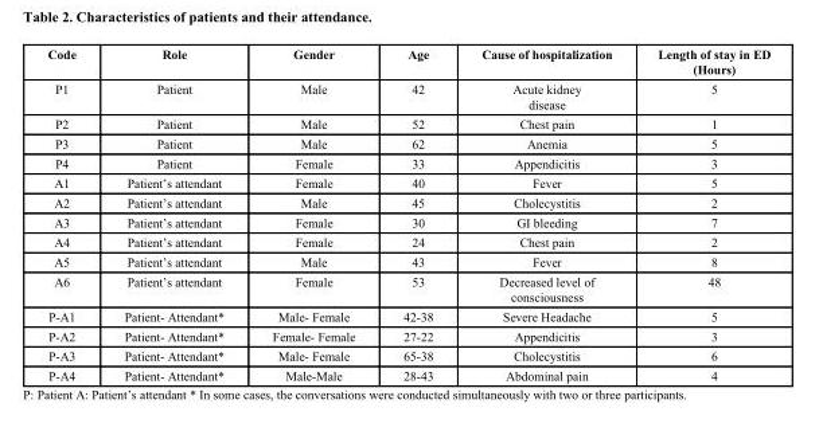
<table><thead><tr><td>Code</td><td>Role</td><td>Gender</td><td>Age</td><td>Cause of hospitalization</td><td>Length of stay in ED (Hours)</td></tr></thead><tbody><tr><td>P1</td><td>Patient</td><td>Male</td><td>42</td><td>Acute kidney disease</td><td>5</td></tr><tr><td>P2</td><td>Patient</td><td>Male</td><td>52</td><td>Chest pain</td><td>1</td></tr><tr><td>P3</td><td>Patient</td><td>Male</td><td>62</td><td>Anemia</td><td>5</td></tr><tr><td>P4</td><td>Patient</td><td>Female</td><td>33</td><td>Appendicitis</td><td>3</td></tr><tr><td>A1</td><td>Patient’s attendant</td><td>Female</td><td>40</td><td>Fever</td><td>5</td></tr><tr><td>A2</td><td>Patient’s attendant</td><td>Male</td><td>45</td><td>Cholecystitis</td><td>2</td></tr><tr><td>A3</td><td>Patient’s attendant</td><td>Female</td><td>30</td><td>GI bleeding</td><td>7</td></tr><tr><td>A4</td><td>Patient’s attendant</td><td>Female</td><td>24</td><td>Chest pain</td><td>2</td></tr><tr><td>A5</td><td>Patient’s attendant</td><td>Male</td><td>43</td><td>Fever</td><td>8</td></tr><tr><td>A6</td><td>Patient’s attendant</td><td>Female</td><td>53</td><td>Decreased level of consciousness</td><td>48</td></tr><tr><td>P-A1</td><td>Patient- Attendant*</td><td>Male- Female</td><td>42-38</td><td>Severe Headache</td><td>5</td></tr><tr><td>P-A2</td><td>Patient- Attendant*</td><td>Female- Female</td><td>27-22</td><td>Appendicitis</td><td>3</td></tr><tr><td>P-A3</td><td>Patient- Attendant*</td><td>Male- Female</td><td>65-38</td><td>Cholecystitis</td><td>6</td></tr><tr><td>P-A4</td><td>Patient- Attendant*</td><td>Male-Male</td><td>28-43</td><td>Abdominal pain</td><td>4</td></tr></tbody></table>